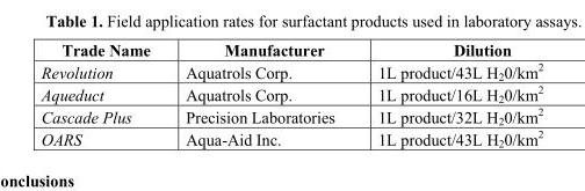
<table><thead><tr><td>Trade Name</td><td>Manufacturer</td><td>Dilution</td></tr></thead><tbody><tr><td>Revolution</td><td>Aquatrols Corp.</td><td>1L product/43L H<sub>2</sub>0/km<sup>2</sup></td></tr><tr><td>Aqueduct</td><td>Aquatrols Corp.</td><td>1L product/16L H<sub>2</sub>0/km<sup>2</sup></td></tr><tr><td>Cascade Plus</td><td>Precision Laboratories</td><td>1L product/32L H<sub>2</sub>0/km<sup>2</sup></td></tr><tr><td>OARS</td><td>Aqua-Aid Inc.</td><td>1L product/43L H<sub>2</sub>0/km<sup>2</sup></td></tr></tbody></table>